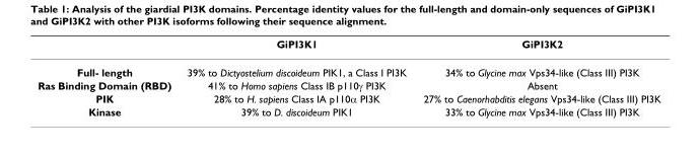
<table><thead><tr><td></td><td>GiPI3K1</td><td>GiPI3K2</td></tr></thead><tbody><tr><td>Full- length</td><td>39% to Dictyostelium discoideum PIK1, a Class I PI3K</td><td>34% to Glycine max Vps34-like (Class III) PI3K</td></tr><tr><td>Ras Binding Domain (RBD)</td><td>41% to Homo sapiens Class IB p110γ PI3K</td><td>Absent</td></tr><tr><td>PIK</td><td>28% to H. sapiens Class IA p110α PI3K</td><td>27% to Caenorhabditis elegans Vps34-like (Class III) PI3K</td></tr><tr><td>Kinase</td><td>39% to D. discoideum PIK1</td><td>33% to Glycine max Vps34-like (Class III) PI3K</td></tr></tbody></table>